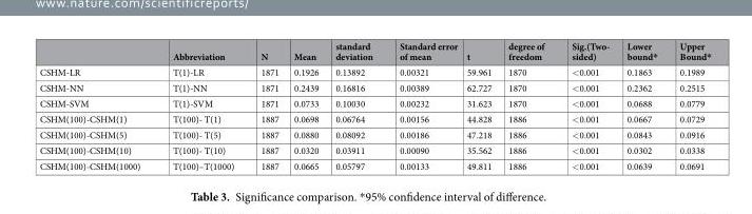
<table><thead><tr><td></td><td>Abbreviation</td><td>N</td><td>Mean</td><td>standard deviation</td><td>Standard error of mean</td><td>t</td><td>degree of freedom</td><td>Sig.(Two- sided)</td><td>Lower bound*</td><td>Upper Bound*</td></tr></thead><tbody><tr><td>CSHM-LR</td><td>T(1)-LR</td><td>1871</td><td>0.1926</td><td>0.13892</td><td>0.00321</td><td>59.961</td><td>1870</td><td>&lt;0.001</td><td>0.1863</td><td>0.1989</td></tr><tr><td>CSHM-NN</td><td>T(1)-NN</td><td>1871</td><td>0.2439</td><td>0.16816</td><td>0.00389</td><td>62.727</td><td>1870</td><td>&lt;0.001</td><td>0.2362</td><td>0.2515</td></tr><tr><td>CSHM-SVM</td><td>T(1)-SVM</td><td>1871</td><td>0.0733</td><td>0.10030</td><td>0.00232</td><td>31.623</td><td>1870</td><td>&lt;0.001</td><td>0.0688</td><td>0.0779</td></tr><tr><td>CSHM(100)-CSHM(1)</td><td>T(100)- T(1)</td><td>1887</td><td>0.0698</td><td>0.06764</td><td>0.00156</td><td>44.828</td><td>1886</td><td>&lt;0.001</td><td>0.0667</td><td>0.0729</td></tr><tr><td>CSHM(100)-CSHM(5)</td><td>T(100)- T(5)</td><td>1887</td><td>0.0880</td><td>0.08092</td><td>0.00186</td><td>47.218</td><td>1886</td><td>&lt;0.001</td><td>0.0843</td><td>0.0916</td></tr><tr><td>CSHM(100)-CSHM(10)</td><td>T(100)- T(10)</td><td>1887</td><td>0.0320</td><td>0.03911</td><td>0.00090</td><td>35.562</td><td>1886</td><td>&lt;0.001</td><td>0.0302</td><td>0.0338</td></tr><tr><td>CSHM(100)-CSHM(1000)</td><td>T(100)–T(1000)</td><td>1887</td><td>0.0665</td><td>0.05797</td><td>0.00133</td><td>49.811</td><td>1886</td><td>&lt;0.001</td><td>0.0639</td><td>0.0691</td></tr></tbody></table>